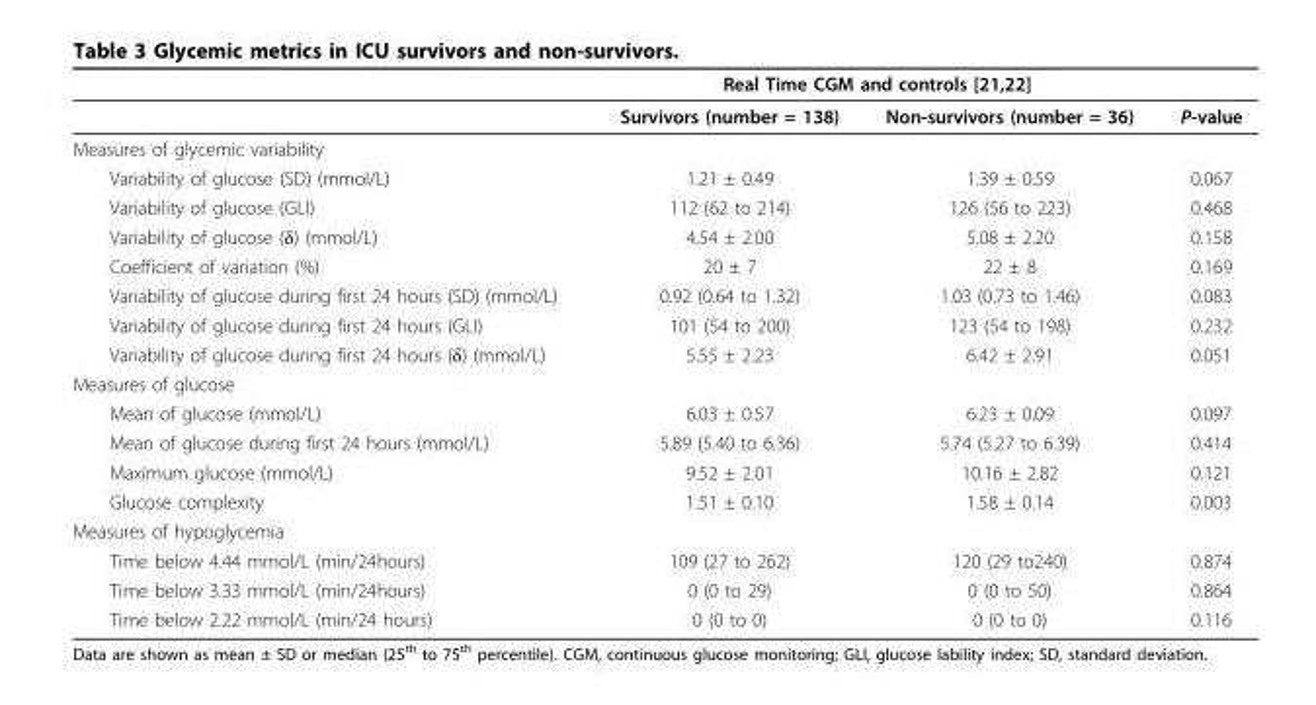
<table><thead><tr><td rowspan="2"></td><td colspan="2">Real Time CGM and controls [21,22]</td><td rowspan="2">P-value</td></tr><tr><td>Survivors (number = 138)</td><td>Non-survivors (number = 36)</td></tr></thead><tbody><tr><td colspan="4">Measures of glycemic variability</td></tr><tr><td>Variability of glucose (SD) (mmol/L)</td><td>1.21 ± 0.49</td><td>1.39 ± 0.59</td><td>0.067</td></tr><tr><td>Variability of glucose (GLI)</td><td>112 (62 to 214)</td><td>126 (56 to 223)</td><td>0.468</td></tr><tr><td>Variability of glucose (δ) (mmol/L)</td><td>4.54 ± 2.00</td><td>5.08 ± 2.20</td><td>0.158</td></tr><tr><td>Coefficient of variation (%)</td><td>20 ± 7</td><td>22 ± 8</td><td>0.169</td></tr><tr><td>Variability of glucose during first 24 hours (SD) (mmol/L)</td><td>0.92 (0.64 to 1.32)</td><td>1.03 (0.73 to 1.46)</td><td>0.083</td></tr><tr><td>Variability of glucose during first 24 hours (GLI)</td><td>101 (54 to 200)</td><td>123 (54 to 198)</td><td>0.232</td></tr><tr><td>Variability of glucose during first 24 hours (δ) (mmol/L)</td><td>5.55 ± 2.23</td><td>6.42 ± 2.91</td><td>0.051</td></tr><tr><td colspan="4">Measures of glucose</td></tr><tr><td>Mean of glucose (mmol/L)</td><td>6.03 ± 0.57</td><td>6.23 ± 0.09</td><td>0.097</td></tr><tr><td>Mean of glucose during first 24 hours (mmol/L)</td><td>5.89 (5.40 to 6.36)</td><td>5.74 (5.27 to 6.39)</td><td>0.414</td></tr><tr><td>Maximum glucose (mmol/L)</td><td>9.52 ± 2.01</td><td>10.16 ± 2.82</td><td>0.121</td></tr><tr><td>Glucose complexity</td><td>1.51 ± 0.10</td><td>1.58 ± 0.14</td><td>0.003</td></tr><tr><td colspan="4">Measures of hypoglycemia</td></tr><tr><td>Time below 4.44 mmol/L (min/24hours)</td><td>109 (27 to 262)</td><td>120 (29 to240)</td><td>0.874</td></tr><tr><td>Time below 3.33 mmol/L (min/24hours)</td><td>0 (0 to 29)</td><td>0 (0 to 50)</td><td>0.864</td></tr><tr><td>Time below 2.22 mmol/L (min/24 hours)</td><td>0 (0 to 0)</td><td>0 (0 to 0)</td><td>0.116</td></tr></tbody></table>